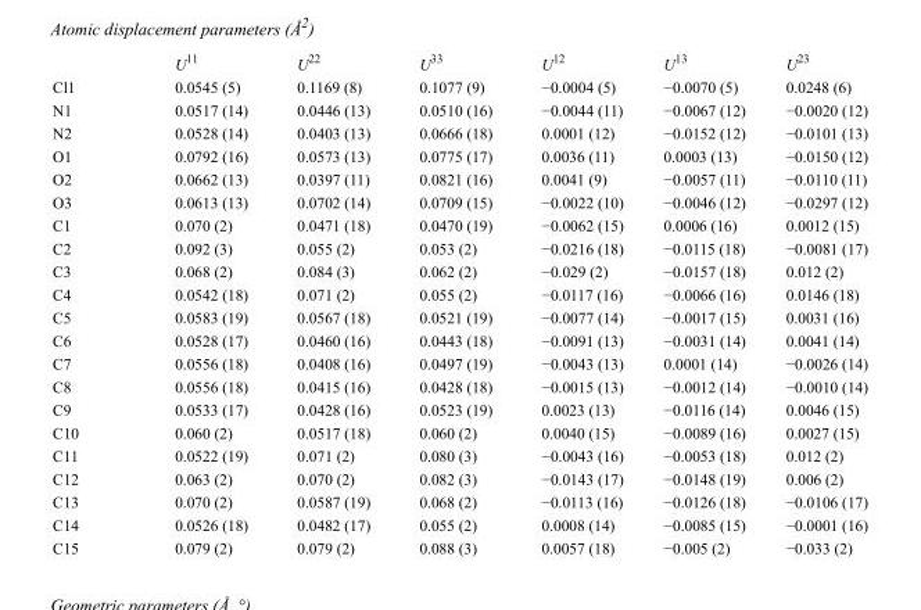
<table><thead><tr><td></td><td>U<sup>11</sup></td><td>U<sup>22</sup></td><td>U<sup>33</sup></td><td>U<sup>12</sup></td><td>U<sup>13</sup></td><td>U<sup>23</sup></td></tr></thead><tbody><tr><td>Cl1</td><td>0.0545 (5)</td><td>0.1169 (8)</td><td>0.1077 (9)</td><td>−0.0004 (5)</td><td>−0.0070 (5)</td><td>0.0248 (6)</td></tr><tr><td>N1</td><td>0.0517 (14)</td><td>0.0446 (13)</td><td>0.0510 (16)</td><td>−0.0044 (11)</td><td>−0.0067 (12)</td><td>−0.0020 (12)</td></tr><tr><td>N2</td><td>0.0528 (14)</td><td>0.0403 (13)</td><td>0.0666 (18)</td><td>0.0001 (12)</td><td>−0.0152 (12)</td><td>−0.0101 (13)</td></tr><tr><td>O1</td><td>0.0792 (16)</td><td>0.0573 (13)</td><td>0.0775 (17)</td><td>0.0036 (11)</td><td>0.0003 (13)</td><td>−0.0150 (12)</td></tr><tr><td>O2</td><td>0.0662 (13)</td><td>0.0397 (11)</td><td>0.0821 (16)</td><td>0.0041 (9)</td><td>−0.0057 (11)</td><td>−0.0110 (11)</td></tr><tr><td>O3</td><td>0.0613 (13)</td><td>0.0702 (14)</td><td>0.0709 (15)</td><td>−0.0022 (10)</td><td>−0.0046 (12)</td><td>−0.0297 (12)</td></tr><tr><td>C1</td><td>0.070 (2)</td><td>0.0471 (18)</td><td>0.0470 (19)</td><td>−0.0062 (15)</td><td>0.0006 (16)</td><td>0.0012 (15)</td></tr><tr><td>C2</td><td>0.092 (3)</td><td>0.055 (2)</td><td>0.053 (2)</td><td>−0.0216 (18)</td><td>−0.0115 (18)</td><td>−0.0081 (17)</td></tr><tr><td>C3</td><td>0.068 (2)</td><td>0.084 (3)</td><td>0.062 (2)</td><td>−0.029 (2)</td><td>−0.0157 (18)</td><td>0.012 (2)</td></tr><tr><td>C4</td><td>0.0542 (18)</td><td>0.071 (2)</td><td>0.055 (2)</td><td>−0.0117 (16)</td><td>−0.0066 (16)</td><td>0.0146 (18)</td></tr><tr><td>C5</td><td>0.0583 (19)</td><td>0.0567 (18)</td><td>0.0521 (19)</td><td>−0.0077 (14)</td><td>−0.0017 (15)</td><td>0.0031 (16)</td></tr><tr><td>C6</td><td>0.0528 (17)</td><td>0.0460 (16)</td><td>0.0443 (18)</td><td>−0.0091 (13)</td><td>−0.0031 (14)</td><td>0.0041 (14)</td></tr><tr><td>C7</td><td>0.0556 (18)</td><td>0.0408 (16)</td><td>0.0497 (19)</td><td>−0.0043 (13)</td><td>0.0001 (14)</td><td>−0.0026 (14)</td></tr><tr><td>C8</td><td>0.0556 (18)</td><td>0.0415 (16)</td><td>0.0428 (18)</td><td>−0.0015 (13)</td><td>−0.0012 (14)</td><td>−0.0010 (14)</td></tr><tr><td>C9</td><td>0.0533 (17)</td><td>0.0428 (16)</td><td>0.0523 (19)</td><td>0.0023 (13)</td><td>−0.0116 (14)</td><td>0.0046 (15)</td></tr><tr><td>C10</td><td>0.060 (2)</td><td>0.0517 (18)</td><td>0.060 (2)</td><td>0.0040 (15)</td><td>−0.0089 (16)</td><td>0.0027 (15)</td></tr><tr><td>C11</td><td>0.0522 (19)</td><td>0.071 (2)</td><td>0.080 (3)</td><td>−0.0043 (16)</td><td>−0.0053 (18)</td><td>0.012 (2)</td></tr><tr><td>C12</td><td>0.063 (2)</td><td>0.070 (2)</td><td>0.082 (3)</td><td>−0.0143 (17)</td><td>−0.0148 (19)</td><td>0.006 (2)</td></tr><tr><td>C13</td><td>0.070 (2)</td><td>0.0587 (19)</td><td>0.068 (2)</td><td>−0.0113 (16)</td><td>−0.0126 (18)</td><td>−0.0106 (17)</td></tr><tr><td>C14</td><td>0.0526 (18)</td><td>0.0482 (17)</td><td>0.055 (2)</td><td>0.0008 (14)</td><td>−0.0085 (15)</td><td>−0.0001 (16)</td></tr><tr><td>C15</td><td>0.079 (2)</td><td>0.079 (2)</td><td>0.088 (3)</td><td>0.0057 (18)</td><td>−0.005 (2)</td><td>−0.033 (2)</td></tr></tbody></table>